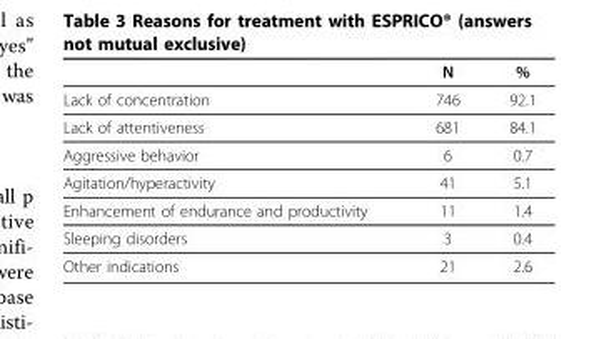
<table><thead><tr><td></td><td>N</td><td>%</td></tr></thead><tbody><tr><td>Lack of concentration</td><td>746</td><td>92.1</td></tr><tr><td>Lack of attentiveness</td><td>681</td><td>84.1</td></tr><tr><td>Aggressive behavior</td><td>6</td><td>0.7</td></tr><tr><td>Agitation/hyperactivity</td><td>41</td><td>5.1</td></tr><tr><td>Enhancement of endurance and productivity</td><td>11</td><td>1.4</td></tr><tr><td>Sleeping disorders</td><td>3</td><td>0.4</td></tr><tr><td>Other indications</td><td>21</td><td>2.6</td></tr></tbody></table>